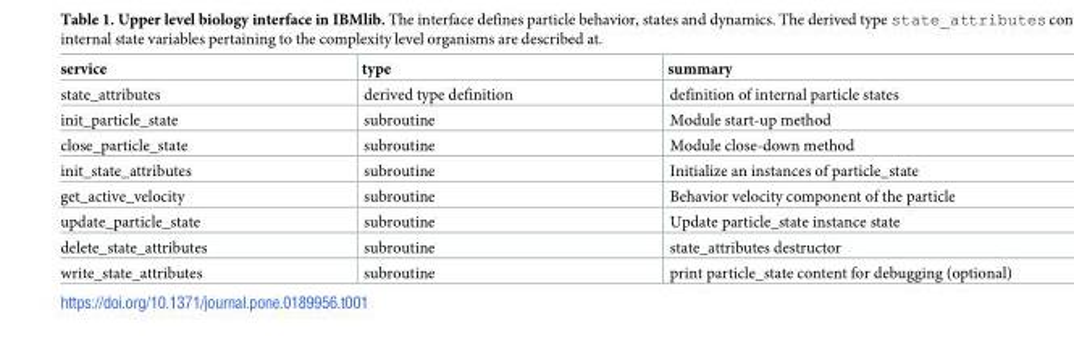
<table><thead><tr><td>service</td><td>type</td><td>summary</td></tr></thead><tbody><tr><td>state_attributes</td><td>derived type definition</td><td>definition of internal particle states</td></tr><tr><td>init_particle_state</td><td>subroutine</td><td>Module start-up method</td></tr><tr><td>close_particle_state</td><td>subroutine</td><td>Module close-down method</td></tr><tr><td>init_state_attributes</td><td>subroutine</td><td>Initialize an instances of particle_state</td></tr><tr><td>get_active_velocity</td><td>subroutine</td><td>Behavior velocity component of the particle</td></tr><tr><td>update_particle_state</td><td>subroutine</td><td>Update particle_state instance state</td></tr><tr><td>delete_state_attributes</td><td>subroutine</td><td>state_attributes destructor</td></tr><tr><td>write_state_attributes</td><td>subroutine</td><td>print particle_state content for debugging (optional)</td></tr></tbody></table>